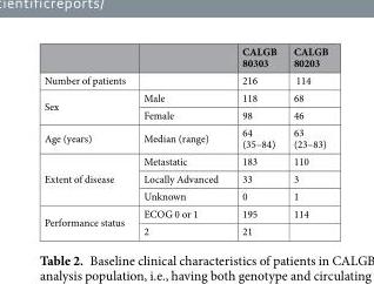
<table><thead><tr><td></td><td></td><td>CALGB 80303</td><td>CALGB 80203</td></tr></thead><tbody><tr><td>Number of patients</td><td></td><td>216</td><td>114</td></tr><tr><td rowspan="2">Sex</td><td>Male</td><td>118</td><td>68</td></tr><tr><td>Female</td><td>98</td><td>46</td></tr><tr><td>Age (years)</td><td>Median (range)</td><td>64 (35–84)</td><td>63 (23–83)</td></tr><tr><td rowspan="3">Extent of disease</td><td>Metastatic</td><td>183</td><td>110</td></tr><tr><td>Locally Advanced</td><td>33</td><td>3</td></tr><tr><td>Unknown</td><td>0</td><td>1</td></tr><tr><td rowspan="2">Performance status</td><td>ECOG 0 or 1</td><td>195</td><td>114</td></tr><tr><td>2</td><td>21</td><td></td></tr></tbody></table>